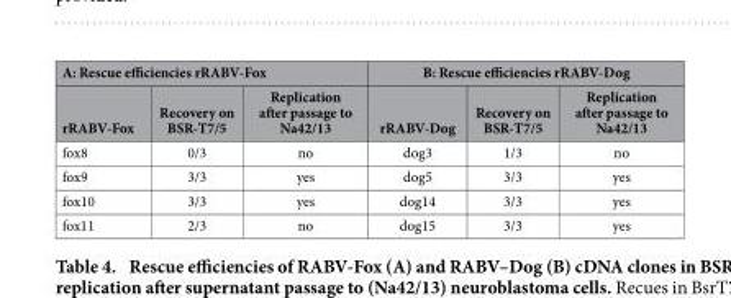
<table><thead><tr><td colspan="3">A: Rescue efficiencies rRABV-Fox</td><td colspan="3">B: Rescue efficiencies rRABV-Dog</td></tr><tr><td>rRABV-Fox</td><td>Recovery on BSR-T7/5</td><td>Replication after passage to Na42/13</td><td>rRABV-Dog</td><td>Recovery on BSR-T7/5</td><td>Replication after passage to Na42/13</td></tr></thead><tbody><tr><td>fox8</td><td>0/3</td><td>no</td><td>dog3</td><td>1/3</td><td>no</td></tr><tr><td>fox9</td><td>3/3</td><td>yes</td><td>dog5</td><td>3/3</td><td>yes</td></tr><tr><td>fox10</td><td>3/3</td><td>yes</td><td>dog14</td><td>3/3</td><td>yes</td></tr><tr><td>fox11</td><td>2/3</td><td>no</td><td>dog15</td><td>3/3</td><td>yes</td></tr></tbody></table>